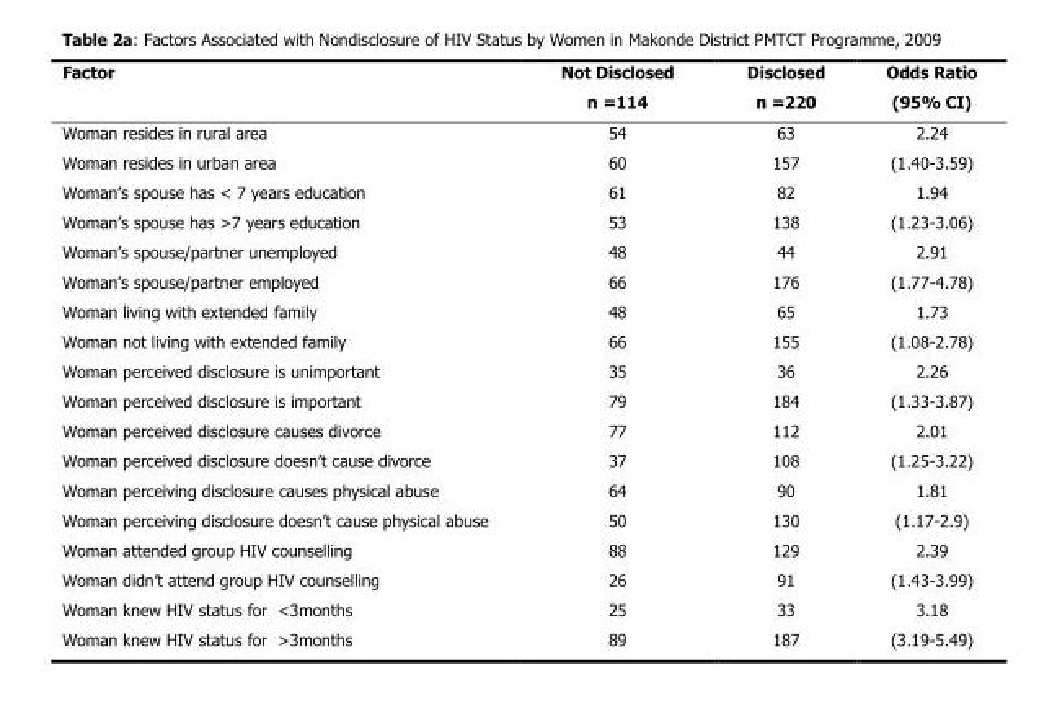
<table><thead><tr><td>Factor</td><td>Not Disclosed n =114</td><td>Disclosed n =220</td><td>Odds Ratio (95% CI)</td></tr></thead><tbody><tr><td>Woman resides in rural area</td><td>54</td><td>63</td><td>2.24</td></tr><tr><td>Woman resides in urban area</td><td>60</td><td>157</td><td>(1.40-3.59)</td></tr><tr><td>Woman’s spouse has &lt; 7 years education</td><td>61</td><td>82</td><td>1.94</td></tr><tr><td>Woman’s spouse has &gt;7 years education</td><td>53</td><td>138</td><td>(1.23-3.06)</td></tr><tr><td>Woman’s spouse/partner unemployed</td><td>48</td><td>44</td><td>2.91</td></tr><tr><td>Woman’s spouse/partner employed</td><td>66</td><td>176</td><td>(1.77-4.78)</td></tr><tr><td>Woman living with extended family</td><td>48</td><td>65</td><td>1.73</td></tr><tr><td>Woman not living with extended family</td><td>66</td><td>155</td><td>(1.08-2.78)</td></tr><tr><td>Woman perceived disclosure is unimportant</td><td>35</td><td>36</td><td>2.26</td></tr><tr><td>Woman perceived disclosure is important</td><td>79</td><td>184</td><td>(1.33-3.87)</td></tr><tr><td>Woman perceived disclosure causes divorce</td><td>77</td><td>112</td><td>2.01</td></tr><tr><td>Woman perceived disclosure doesn’t cause divorce</td><td>37</td><td>108</td><td>(1.25-3.22)</td></tr><tr><td>Woman perceiving disclosure causes physical abuse</td><td>64</td><td>90</td><td>1.81</td></tr><tr><td>Woman perceiving disclosure doesn’t cause physical abuse</td><td>50</td><td>130</td><td>(1.17-2.9)</td></tr><tr><td>Woman attended group HIV counselling</td><td>88</td><td>129</td><td>2.39</td></tr><tr><td>Woman didn’t attend group HIV counselling</td><td>26</td><td>91</td><td>(1.43-3.99)</td></tr><tr><td>Woman knew HIV status for &lt;3months</td><td>25</td><td>33</td><td>3.18</td></tr><tr><td>Woman knew HIV status for &gt;3months</td><td>89</td><td>187</td><td>(3.19-5.49)</td></tr></tbody></table>